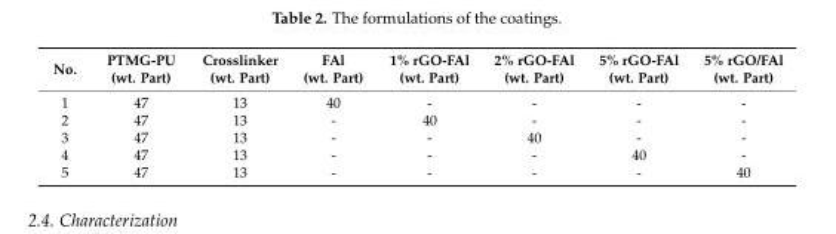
<table><thead><tr><td>No.</td><td>PTMG-PU (wt. Part)</td><td>Crosslinker (wt. Part)</td><td>FAl (wt. Part)</td><td>1% rGO-FAl (wt. Part)</td><td>2% rGO-FAl (wt. Part)</td><td>5% rGO-FAl (wt. Part)</td><td>5% rGO/FAl (wt. Part)</td></tr></thead><tbody><tr><td>1</td><td>47</td><td>13</td><td>40</td><td>-</td><td>-</td><td>-</td><td>-</td></tr><tr><td>2</td><td>47</td><td>13</td><td>-</td><td>40</td><td>-</td><td>-</td><td>-</td></tr><tr><td>3</td><td>47</td><td>13</td><td>-</td><td>-</td><td>40</td><td>-</td><td>-</td></tr><tr><td>4</td><td>47</td><td>13</td><td>-</td><td>-</td><td>-</td><td>40</td><td>-</td></tr><tr><td>5</td><td>47</td><td>13</td><td>-</td><td>-</td><td>-</td><td>-</td><td>40</td></tr></tbody></table>